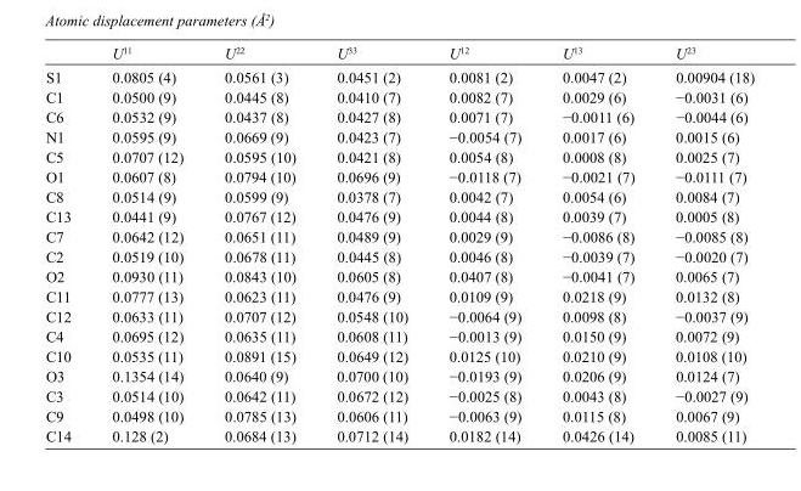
<table><thead><tr><td></td><td>U<sup>11</sup></td><td>U<sup>22</sup></td><td>U<sup>33</sup></td><td>U<sup>12</sup></td><td>U<sup>13</sup></td><td>U<sup>23</sup></td></tr></thead><tbody><tr><td>S1</td><td>0.0805 (4)</td><td>0.0561 (3)</td><td>0.0451 (2)</td><td>0.0081 (2)</td><td>0.0047 (2)</td><td>0.00904 (18)</td></tr><tr><td>C1</td><td>0.0500 (9)</td><td>0.0445 (8)</td><td>0.0410 (7)</td><td>0.0082 (7)</td><td>0.0029 (6)</td><td>−0.0031 (6)</td></tr><tr><td>C6</td><td>0.0532 (9)</td><td>0.0437 (8)</td><td>0.0427 (8)</td><td>0.0071 (7)</td><td>−0.0011 (6)</td><td>−0.0044 (6)</td></tr><tr><td>N1</td><td>0.0595 (9)</td><td>0.0669 (9)</td><td>0.0423 (7)</td><td>−0.0054 (7)</td><td>0.0017 (6)</td><td>0.0015 (6)</td></tr><tr><td>C5</td><td>0.0707 (12)</td><td>0.0595 (10)</td><td>0.0421 (8)</td><td>0.0054 (8)</td><td>0.0008 (8)</td><td>0.0025 (7)</td></tr><tr><td>O1</td><td>0.0607 (8)</td><td>0.0794 (10)</td><td>0.0696 (9)</td><td>−0.0118 (7)</td><td>−0.0021 (7)</td><td>−0.0111 (7)</td></tr><tr><td>C8</td><td>0.0514 (9)</td><td>0.0599 (9)</td><td>0.0378 (7)</td><td>0.0042 (7)</td><td>0.0054 (6)</td><td>0.0084 (7)</td></tr><tr><td>C13</td><td>0.0441 (9)</td><td>0.0767 (12)</td><td>0.0476 (9)</td><td>0.0044 (8)</td><td>0.0039 (7)</td><td>0.0005 (8)</td></tr><tr><td>C7</td><td>0.0642 (12)</td><td>0.0651 (11)</td><td>0.0489 (9)</td><td>0.0029 (9)</td><td>−0.0086 (8)</td><td>−0.0085 (8)</td></tr><tr><td>C2</td><td>0.0519 (10)</td><td>0.0678 (11)</td><td>0.0445 (8)</td><td>0.0046 (8)</td><td>−0.0039 (7)</td><td>−0.0020 (7)</td></tr><tr><td>O2</td><td>0.0930 (11)</td><td>0.0843 (10)</td><td>0.0605 (8)</td><td>0.0407 (8)</td><td>−0.0041 (7)</td><td>0.0065 (7)</td></tr><tr><td>C11</td><td>0.0777 (13)</td><td>0.0623 (11)</td><td>0.0476 (9)</td><td>0.0109 (9)</td><td>0.0218 (9)</td><td>0.0132 (8)</td></tr><tr><td>C12</td><td>0.0633 (11)</td><td>0.0707 (12)</td><td>0.0548 (10)</td><td>−0.0064 (9)</td><td>0.0098 (8)</td><td>−0.0037 (9)</td></tr><tr><td>C4</td><td>0.0695 (12)</td><td>0.0635 (11)</td><td>0.0608 (11)</td><td>−0.0013 (9)</td><td>0.0150 (9)</td><td>0.0072 (9)</td></tr><tr><td>C10</td><td>0.0535 (11)</td><td>0.0891 (15)</td><td>0.0649 (12)</td><td>0.0125 (10)</td><td>0.0210 (9)</td><td>0.0108 (10)</td></tr><tr><td>O3</td><td>0.1354 (14)</td><td>0.0640 (9)</td><td>0.0700 (10)</td><td>−0.0193 (9)</td><td>0.0206 (9)</td><td>0.0124 (7)</td></tr><tr><td>C3</td><td>0.0514 (10)</td><td>0.0642 (11)</td><td>0.0672 (12)</td><td>−0.0025 (8)</td><td>0.0043 (8)</td><td>−0.0027 (9)</td></tr><tr><td>C9</td><td>0.0498 (10)</td><td>0.0785 (13)</td><td>0.0606 (11)</td><td>−0.0063 (9)</td><td>0.0115 (8)</td><td>0.0067 (9)</td></tr><tr><td>C14</td><td>0.128 (2)</td><td>0.0684 (13)</td><td>0.0712 (14)</td><td>0.0182 (14)</td><td>0.0426 (14)</td><td>0.0085 (11)</td></tr></tbody></table>